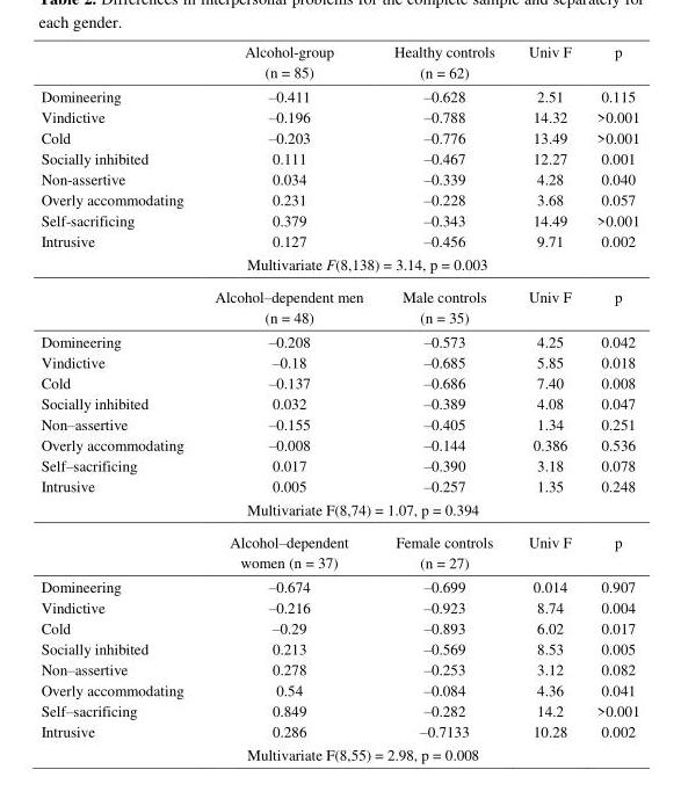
<table><thead><tr><td></td><td>Alcohol-group (n = 85)</td><td>Healthy controls (n = 62)</td><td>Univ F</td><td>p</td></tr></thead><tbody><tr><td>Domineering</td><td>–0.411</td><td>–0.628</td><td>2.51</td><td>0.115</td></tr><tr><td>Vindictive</td><td>–0.196</td><td>–0.788</td><td>14.32</td><td>&gt;0.001</td></tr><tr><td>Cold</td><td>–0.203</td><td>–0.776</td><td>13.49</td><td>&gt;0.001</td></tr><tr><td>Socially inhibited</td><td>0.111</td><td>–0.467</td><td>12.27</td><td>0.001</td></tr><tr><td>Non-assertive</td><td>0.034</td><td>–0.339</td><td>4.28</td><td>0.040</td></tr><tr><td>Overly accommodating</td><td>0.231</td><td>–0.228</td><td>3.68</td><td>0.057</td></tr><tr><td>Self-sacrificing</td><td>0.379</td><td>–0.343</td><td>14.49</td><td>&gt;0.001</td></tr><tr><td>Intrusive</td><td>0.127</td><td>–0.456</td><td>9.71</td><td>0.002</td></tr><tr><td colspan="5">Multivariate F(8,138) = 3.14, p = 0.003</td></tr><tr><td></td><td>Alcohol–dependent men (n = 48)</td><td>Male controls (n = 35)</td><td>Univ F</td><td>p</td></tr><tr><td>Domineering</td><td>–0.208</td><td>–0.573</td><td>4.25</td><td>0.042</td></tr><tr><td>Vindictive</td><td>–0.18</td><td>–0.685</td><td>5.85</td><td>0.018</td></tr><tr><td>Cold</td><td>–0.137</td><td>–0.686</td><td>7.40</td><td>0.008</td></tr><tr><td>Socially inhibited</td><td>0.032</td><td>–0.389</td><td>4.08</td><td>0.047</td></tr><tr><td>Non–assertive</td><td>–0.155</td><td>–0.405</td><td>1.34</td><td>0.251</td></tr><tr><td>Overly accommodating</td><td>–0.008</td><td>–0.144</td><td>0.386</td><td>0.536</td></tr><tr><td>Self–sacrificing</td><td>0.017</td><td>–0.390</td><td>3.18</td><td>0.078</td></tr><tr><td>Intrusive</td><td>0.005</td><td>–0.257</td><td>1.35</td><td>0.248</td></tr><tr><td colspan="5">Multivariate F(8,74) = 1.07, p = 0.394</td></tr><tr><td></td><td>Alcohol–dependent women (n = 37)</td><td>Female controls (n = 27)</td><td>Univ F</td><td>p</td></tr><tr><td>Domineering</td><td>–0.674</td><td>–0.699</td><td>0.014</td><td>0.907</td></tr><tr><td>Vindictive</td><td>–0.216</td><td>–0.923</td><td>8.74</td><td>0.004</td></tr><tr><td>Cold</td><td>–0.29</td><td>–0.893</td><td>6.02</td><td>0.017</td></tr><tr><td>Socially inhibited</td><td>0.213</td><td>–0.569</td><td>8.53</td><td>0.005</td></tr><tr><td>Non–assertive</td><td>0.278</td><td>–0.253</td><td>3.12</td><td>0.082</td></tr><tr><td>Overly accommodating</td><td>0.54</td><td>–0.084</td><td>4.36</td><td>0.041</td></tr><tr><td>Self–sacrificing</td><td>0.849</td><td>–0.282</td><td>14.2</td><td>&gt;0.001</td></tr><tr><td>Intrusive</td><td>0.286</td><td>–0.7133</td><td>10.28</td><td>0.002</td></tr><tr><td colspan="5">Multivariate F(8,55) = 2.98, p = 0.008</td></tr></tbody></table>